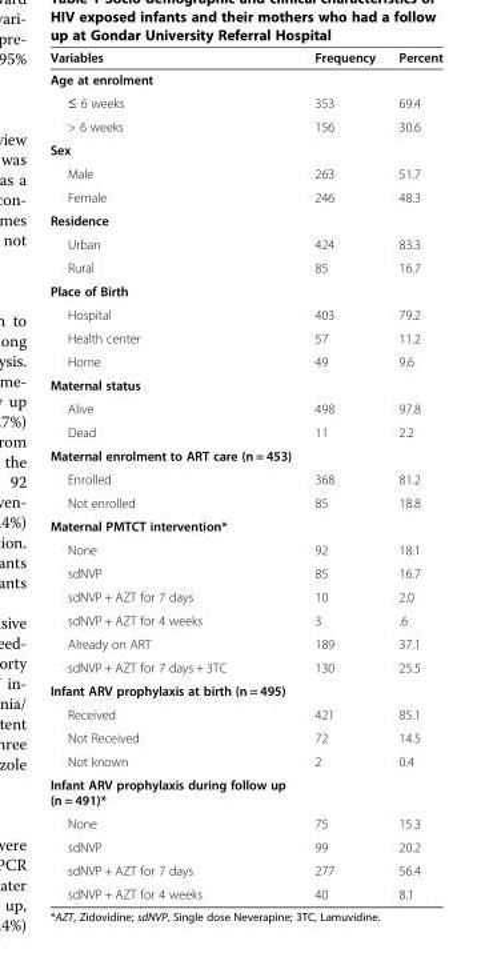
<table><thead><tr><td>Variables</td><td>Frequency</td><td>Percent</td></tr></thead><tbody><tr><td colspan="3">Age at enrolment</td></tr><tr><td>≤ 6 weeks</td><td>353</td><td>69.4</td></tr><tr><td>&gt; 6 weeks</td><td>156</td><td>30.6</td></tr><tr><td colspan="3">Sex</td></tr><tr><td>Male</td><td>263</td><td>51.7</td></tr><tr><td>Female</td><td>246</td><td>48.3</td></tr><tr><td colspan="3">Residence</td></tr><tr><td>Urban</td><td>424</td><td>83.3</td></tr><tr><td>Rural</td><td>85</td><td>16.7</td></tr><tr><td colspan="3">Place of Birth</td></tr><tr><td>Hospital</td><td>403</td><td>79.2</td></tr><tr><td>Health center</td><td>57</td><td>11.2</td></tr><tr><td>Home</td><td>49</td><td>9.6</td></tr><tr><td colspan="3">Maternal status</td></tr><tr><td>Alive</td><td>498</td><td>97.8</td></tr><tr><td>Dead</td><td>11</td><td>2.2</td></tr><tr><td colspan="3">Maternal enrolment to ART care (n = 453)</td></tr><tr><td>Enrolled</td><td>368</td><td>81.2</td></tr><tr><td>Not enrolled</td><td>85</td><td>18.8</td></tr><tr><td colspan="3">Maternal PMTCT intervention*</td></tr><tr><td>None</td><td>92</td><td>18.1</td></tr><tr><td>sdNVP</td><td>85</td><td>16.7</td></tr><tr><td>sdNVP + AZT for 7 days</td><td>10</td><td>2.0</td></tr><tr><td>sdNVP + AZT for 4 weeks</td><td>3</td><td>.6</td></tr><tr><td>Already on ART</td><td>189</td><td>37.1</td></tr><tr><td>sdNVP + AZT for 7 days + 3TC</td><td>130</td><td>25.5</td></tr><tr><td colspan="3">Infant ARV prophylaxis at birth (n = 495)</td></tr><tr><td>Received</td><td>421</td><td>85.1</td></tr><tr><td>Not Received</td><td>72</td><td>14.5</td></tr><tr><td>Not known</td><td>2</td><td>0.4</td></tr><tr><td colspan="3">Infant ARV prophylaxis during follow up (n = 491)*</td></tr><tr><td>None</td><td>75</td><td>15.3</td></tr><tr><td>sdNVP</td><td>99</td><td>20.2</td></tr><tr><td>sdNVP + AZT for 7 days</td><td>277</td><td>56.4</td></tr><tr><td>sdNVP + AZT for 4 weeks</td><td>40</td><td>8.1</td></tr></tbody></table>